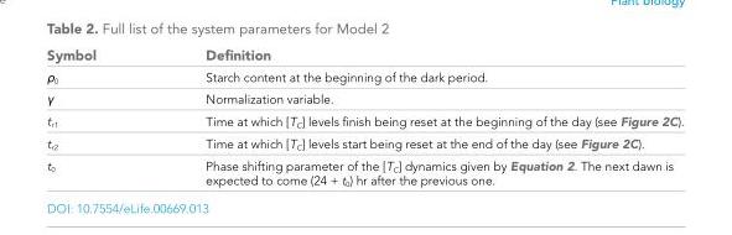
<table><thead><tr><td>Symbol</td><td>Definition</td></tr></thead><tbody><tr><td>ρ<sub>0</sub></td><td>Starch content at the beginning of the dark period.</td></tr><tr><td>γ</td><td>Normalization variable.</td></tr><tr><td>t<sub>r1</sub></td><td>Time at which [T<sub>C</sub>] levels finish being reset at the beginning of the day (see Figure 2C).</td></tr><tr><td>t<sub>r2</sub></td><td>Time at which [T<sub>C</sub>] levels start being reset at the end of the day (see Figure 2C).</td></tr><tr><td>t<sub>0</sub></td><td>Phase shifting parameter of the [T<sub>C</sub>] dynamics given by Equation 2. The next dawn is expected to come (24 + t<sub>0</sub>) hr after the previous one.</td></tr></tbody></table>